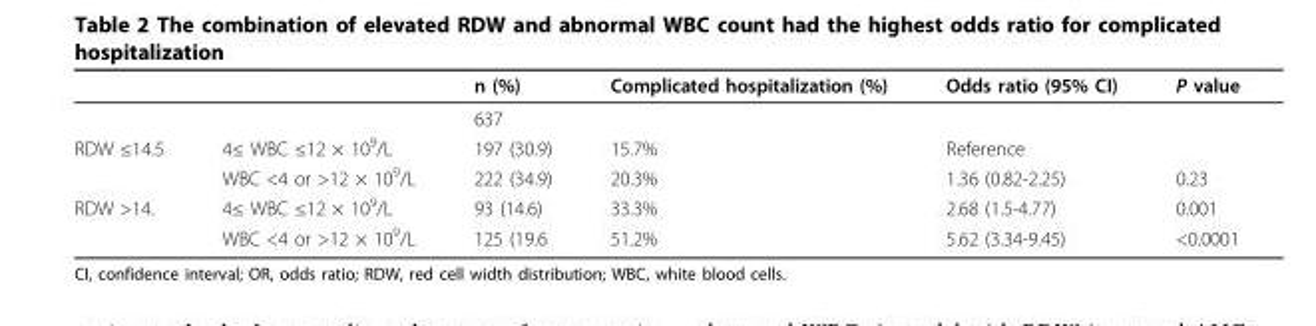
<table><thead><tr><td></td><td></td><td>n (%)</td><td>Complicated hospitalization (%)</td><td>Odds ratio (95% CI)</td><td>P value</td></tr></thead><tbody><tr><td></td><td></td><td>637</td><td></td><td></td><td></td></tr><tr><td rowspan="2">RDW ≤14.5</td><td>4≤ WBC ≤12 × 10<sup>9</sup>/L</td><td>197 (30.9)</td><td>15.7%</td><td>Reference</td><td></td></tr><tr><td>WBC &lt;4 or &gt;12 × 10<sup>9</sup>/L</td><td>222 (34.9)</td><td>20.3%</td><td>1.36 (0.82-2.25)</td><td>0.23</td></tr><tr><td rowspan="2">RDW &gt;14.</td><td>4≤ WBC ≤12 × 10<sup>9</sup>/L</td><td>93 (14.6)</td><td>33.3%</td><td>2.68 (1.5-4.77)</td><td>0.001</td></tr><tr><td>WBC &lt;4 or &gt;12 × 10<sup>9</sup>/L</td><td>125 (19.6</td><td>51.2%</td><td>5.62 (3.34-9.45)</td><td>&lt;0.0001</td></tr></tbody></table>